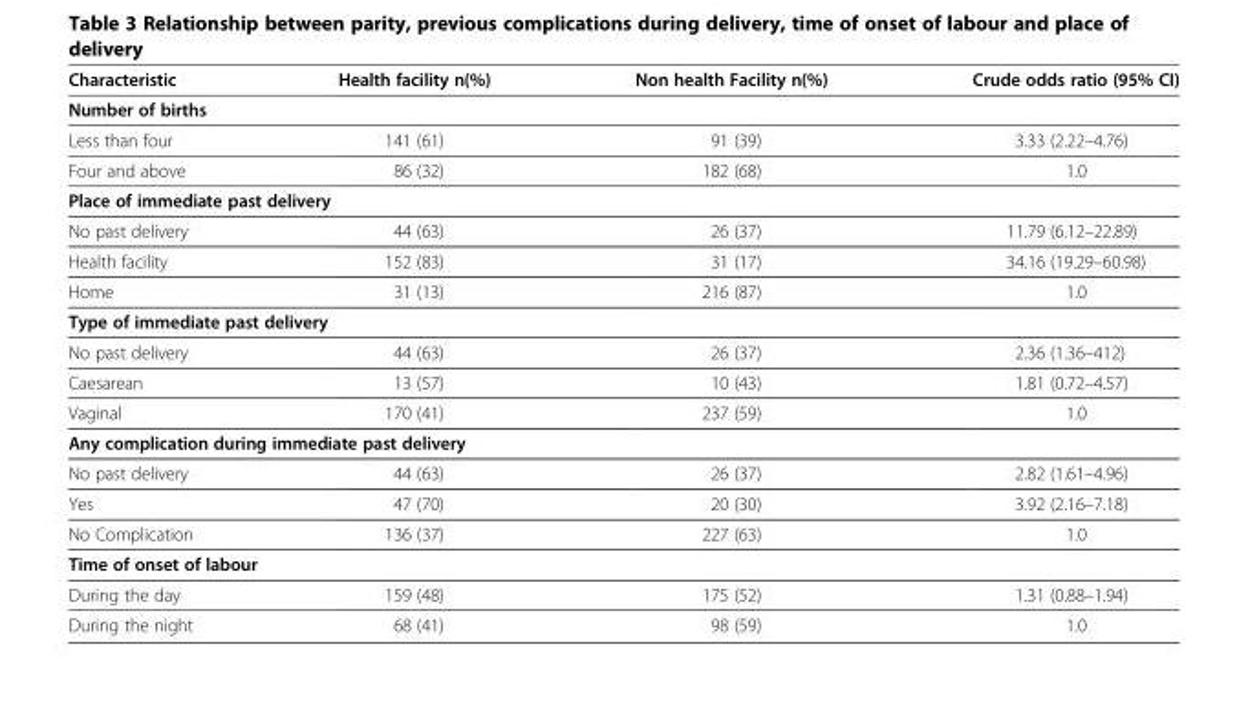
<table><thead><tr><td>Characteristic</td><td>Health facility n(%)</td><td>Non health Facility n(%)</td><td>Crude odds ratio (95% CI)</td></tr></thead><tbody><tr><td colspan="4">Number of births</td></tr><tr><td>Less than four</td><td>141 (61)</td><td>91 (39)</td><td>3.33 (2.22–4.76)</td></tr><tr><td>Four and above</td><td>86 (32)</td><td>182 (68)</td><td>1.0</td></tr><tr><td colspan="4">Place of immediate past delivery</td></tr><tr><td>No past delivery</td><td>44 (63)</td><td>26 (37)</td><td>11.79 (6.12–22.89)</td></tr><tr><td>Health facility</td><td>152 (83)</td><td>31 (17)</td><td>34.16 (19.29–60.98)</td></tr><tr><td>Home</td><td>31 (13)</td><td>216 (87)</td><td>1.0</td></tr><tr><td colspan="4">Type of immediate past delivery</td></tr><tr><td>No past delivery</td><td>44 (63)</td><td>26 (37)</td><td>2.36 (1.36–412)</td></tr><tr><td>Caesarean</td><td>13 (57)</td><td>10 (43)</td><td>1.81 (0.72–4.57)</td></tr><tr><td>Vaginal</td><td>170 (41)</td><td>237 (59)</td><td>1.0</td></tr><tr><td colspan="4">Any complication during immediate past delivery</td></tr><tr><td>No past delivery</td><td>44 (63)</td><td>26 (37)</td><td>2.82 (1.61–4.96)</td></tr><tr><td>Yes</td><td>47 (70)</td><td>20 (30)</td><td>3.92 (2.16–7.18)</td></tr><tr><td>No Complication</td><td>136 (37)</td><td>227 (63)</td><td>1.0</td></tr><tr><td colspan="4">Time of onset of labour</td></tr><tr><td>During the day</td><td>159 (48)</td><td>175 (52)</td><td>1.31 (0.88–1.94)</td></tr><tr><td>During the night</td><td>68 (41)</td><td>98 (59)</td><td>1.0</td></tr></tbody></table>